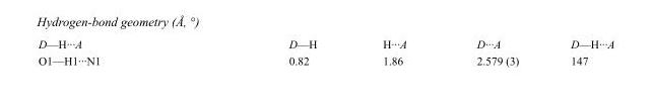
<table><tbody><tr><td>D—H···A</td><td>D—H</td><td>H···A</td><td>D···A</td><td>D—H···A</td></tr><tr><td>O1—H1···N1</td><td>0.82</td><td>1.86</td><td>2.579 (3)</td><td>147</td></tr></tbody></table>